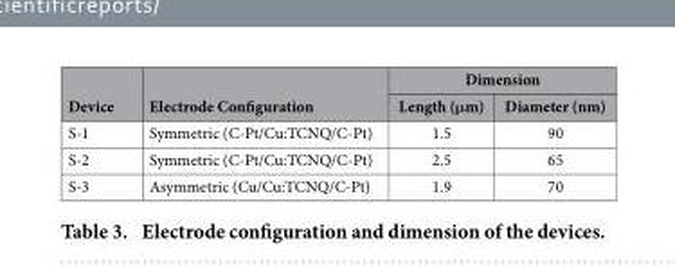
<table><thead><tr><td rowspan="2">Device</td><td rowspan="2">Electrode Configuration</td><td colspan="2">Dimension</td></tr><tr><td>Length (μm)</td><td>Diameter (nm)</td></tr></thead><tbody><tr><td>S-1</td><td>Symmetric (C-Pt/Cu:TCNQ/C-Pt)</td><td>1.5</td><td>90</td></tr><tr><td>S-2</td><td>Symmetric (C-Pt/Cu:TCNQ/C-Pt)</td><td>2.5</td><td>65</td></tr><tr><td>S-3</td><td>Asymmetric (Cu/Cu:TCNQ/C-Pt)</td><td>1.9</td><td>70</td></tr></tbody></table>